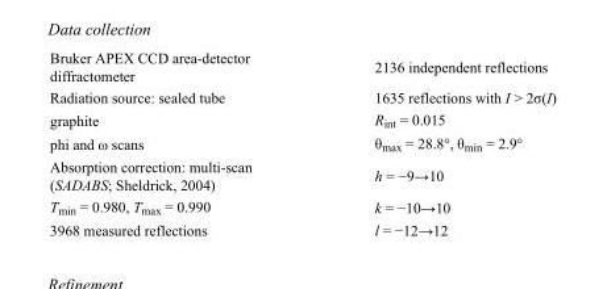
<table><tbody><tr><td>Bruker APEX CCD area-detector diffractometer</td><td>2136 independent reflections</td></tr><tr><td>Radiation source: sealed tube</td><td>1635 reflections with I &gt; 2σ(I)</td></tr><tr><td>graphite</td><td>R<sub>int</sub> = 0.015</td></tr><tr><td>phi and ω scans</td><td>θ<sub>max</sub> = 28.8°, θ<sub>min</sub> = 2.9°</td></tr><tr><td>Absorption correction: multi-scan (SADABS; Sheldrick, 2004)</td><td>h = −9→10</td></tr><tr><td>T<sub>min</sub> = 0.980, T<sub>max</sub> = 0.990</td><td>k = −10→10</td></tr><tr><td>3968 measured reflections</td><td>l = −12→12</td></tr></tbody></table>